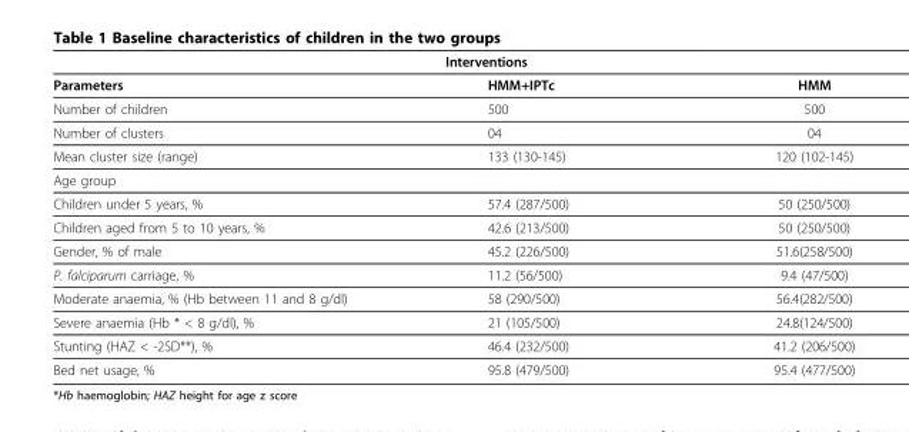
<table><thead><tr><td colspan="3">Interventions</td></tr><tr><td>Parameters</td><td>HMM+IPTc</td><td>HMM</td></tr></thead><tbody><tr><td>Number of children</td><td>500</td><td>500</td></tr><tr><td>Number of clusters</td><td>04</td><td>04</td></tr><tr><td>Mean cluster size (range)</td><td>133 (130-145)</td><td>120 (102-145)</td></tr><tr><td colspan="3">Age group</td></tr><tr><td>Children under 5 years, %</td><td>57.4 (287/500)</td><td>50 (250/500)</td></tr><tr><td>Children aged from 5 to 10 years, %</td><td>42.6 (213/500)</td><td>50 (250/500)</td></tr><tr><td>Gender, % of male</td><td>45.2 (226/500)</td><td>51.6(258/500)</td></tr><tr><td>P. falciparum carriage, %</td><td>11.2 (56/500)</td><td>9.4 (47/500)</td></tr><tr><td>Moderate anaemia, % (Hb between 11 and 8 g/dl)</td><td>58 (290/500)</td><td>56.4(282/500)</td></tr><tr><td>Severe anaemia (Hb * &lt; 8 g/dl), %</td><td>21 (105/500)</td><td>24.8(124/500)</td></tr><tr><td>Stunting (HAZ &lt; -2SD**), %</td><td>46.4 (232/500)</td><td>41.2 (206/500)</td></tr><tr><td>Bed net usage, %</td><td>95.8 (479/500)</td><td>95.4 (477/500)</td></tr></tbody></table>